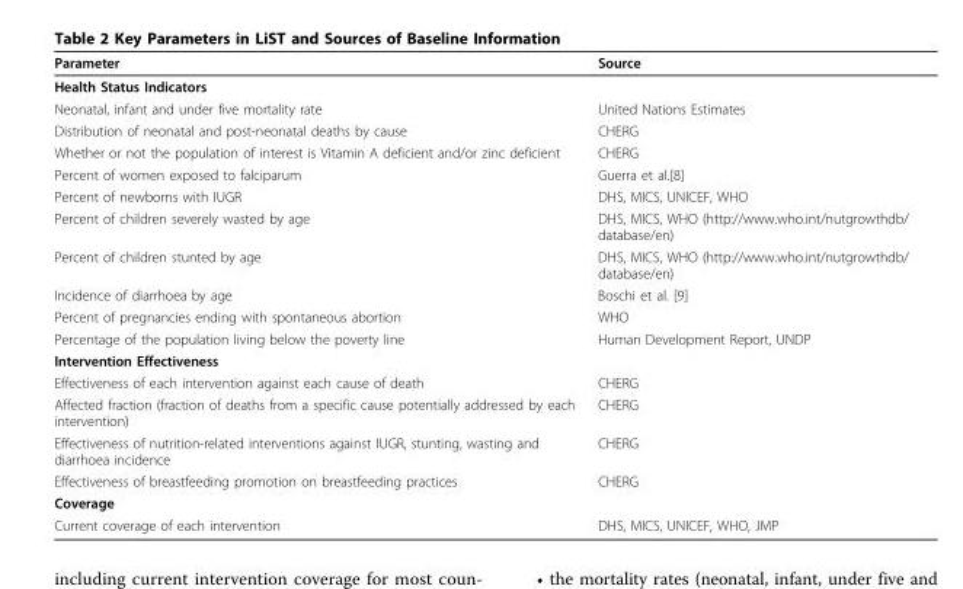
<table><thead><tr><td>Parameter</td><td>Source</td></tr></thead><tbody><tr><td colspan="2">Health Status Indicators</td></tr><tr><td>Neonatal, infant and under five mortality rate</td><td>United Nations Estimates</td></tr><tr><td>Distribution of neonatal and post-neonatal deaths by cause</td><td>CHERG</td></tr><tr><td>Whether or not the population of interest is Vitamin A deficient and/or zinc deficient</td><td>CHERG</td></tr><tr><td>Percent of women exposed to falciparum</td><td>Guerra et al.[8]</td></tr><tr><td>Percent of newborns with IUGR</td><td>DHS, MICS, UNICEF, WHO</td></tr><tr><td>Percent of children severely wasted by age</td><td>DHS, MICS, WHO (http://www.who.int/nutgrowthdb/ database/en)</td></tr><tr><td>Percent of children stunted by age</td><td>DHS, MICS, WHO (http://www.who.int/nutgrowthdb/ database/en)</td></tr><tr><td>Incidence of diarrhoea by age</td><td>Boschi et al. [9]</td></tr><tr><td>Percent of pregnancies ending with spontaneous abortion</td><td>WHO</td></tr><tr><td>Percentage of the population living below the poverty line</td><td>Human Development Report, UNDP</td></tr><tr><td colspan="2">Intervention Effectiveness</td></tr><tr><td>Effectiveness of each intervention against each cause of death</td><td>CHERG</td></tr><tr><td>Affected fraction (fraction of deaths from a specific cause potentially addressed by each intervention)</td><td>CHERG</td></tr><tr><td>Effectiveness of nutrition-related interventions against IUGR, stunting, wasting and diarrhoea incidence</td><td>CHERG</td></tr><tr><td>Effectiveness of breastfeeding promotion on breastfeeding practices</td><td>CHERG</td></tr><tr><td colspan="2">Coverage</td></tr><tr><td>Current coverage of each intervention</td><td>DHS, MICS, UNICEF, WHO, JMP</td></tr></tbody></table>